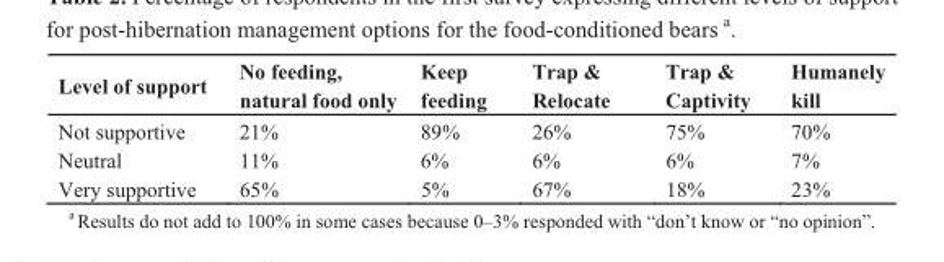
<table><thead><tr><td>Level of support</td><td>No feeding, natural food only</td><td>Keep feeding</td><td>Trap &amp; Relocate</td><td>Trap &amp; Captivity</td><td>Humanely kill</td></tr></thead><tbody><tr><td>Not supportive</td><td>21%</td><td>89%</td><td>26%</td><td>75%</td><td>70%</td></tr><tr><td>Neutral</td><td>11%</td><td>6%</td><td>6%</td><td>6%</td><td>7%</td></tr><tr><td>Very supportive</td><td>65%</td><td>5%</td><td>67%</td><td>18%</td><td>23%</td></tr></tbody></table>